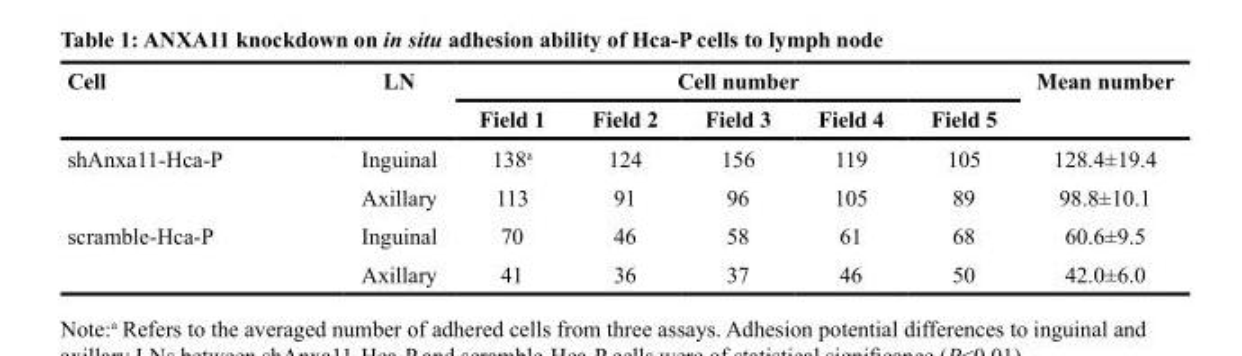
<table><thead><tr><td rowspan="2">Cell</td><td rowspan="2">LN</td><td colspan="5">Cell number</td><td rowspan="2">Mean number</td></tr><tr><td>Field 1</td><td>Field 2</td><td>Field 3</td><td>Field 4</td><td>Field 5</td></tr></thead><tbody><tr><td rowspan="2">shAnxa11-Hca-P</td><td>Inguinal</td><td>138<sup>a</sup></td><td>124</td><td>156</td><td>119</td><td>105</td><td>128.4±19.4</td></tr><tr><td>Axillary</td><td>113</td><td>91</td><td>96</td><td>105</td><td>89</td><td>98.8±10.1</td></tr><tr><td rowspan="2">scramble-Hca-P</td><td>Inguinal</td><td>70</td><td>46</td><td>58</td><td>61</td><td>68</td><td>60.6±9.5</td></tr><tr><td>Axillary</td><td>41</td><td>36</td><td>37</td><td>46</td><td>50</td><td>42.0±6.0</td></tr></tbody></table>